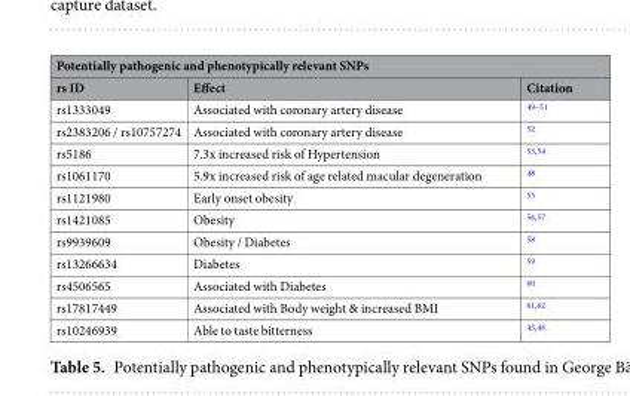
<table><thead><tr><td colspan="3">Potentially pathogenic and phenotypically relevant SNPs</td></tr><tr><td>rs ID</td><td>Effect</td><td>Citation</td></tr></thead><tbody><tr><td>rs1333049</td><td>Associated with coronary artery disease</td><td><sup>49–51</sup></td></tr><tr><td>rs2383206 / rs10757274</td><td>Associated with coronary artery disease</td><td><sup>52</sup></td></tr><tr><td>rs5186</td><td>7.3x increased risk of Hypertension</td><td><sup>53,54</sup></td></tr><tr><td>rs1061170</td><td>5.9x increased risk of age related macular degeneration</td><td><sup>48</sup></td></tr><tr><td>rs1121980</td><td>Early onset obesity</td><td><sup>55</sup></td></tr><tr><td>rs1421085</td><td>Obesity</td><td><sup>56,57</sup></td></tr><tr><td>rs9939609</td><td>Obesity / Diabetes</td><td><sup>58</sup></td></tr><tr><td>rs13266634</td><td>Diabetes</td><td><sup>59</sup></td></tr><tr><td>rs4506565</td><td>Associated with Diabetes</td><td><sup>60</sup></td></tr><tr><td>rs17817449</td><td>Associated with Body weight &amp; increased BMI</td><td><sup>61,62</sup></td></tr><tr><td>rs10246939</td><td>Able to taste bitterness</td><td><sup>45,46</sup></td></tr></tbody></table>